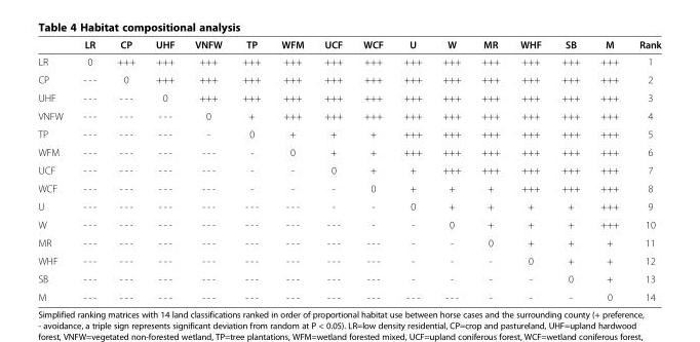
<table><thead><tr><td></td><td>LR</td><td>CP</td><td>UHF</td><td>VNFW</td><td>TP</td><td>WFM</td><td>UCF</td><td>WCF</td><td>U</td><td>W</td><td>MR</td><td>WHF</td><td>SB</td><td>M</td><td>Rank</td></tr></thead><tbody><tr><td>LR</td><td>0</td><td>+++</td><td>+++</td><td>+++</td><td>+++</td><td>+++</td><td>+++</td><td>+++</td><td>+++</td><td>+++</td><td>+++</td><td>+++</td><td>+++</td><td>+++</td><td>1</td></tr><tr><td>CP</td><td>- - -</td><td>0</td><td>+++</td><td>+++</td><td>+++</td><td>+++</td><td>+++</td><td>+++</td><td>+++</td><td>+++</td><td>+++</td><td>+++</td><td>+++</td><td>+++</td><td>2</td></tr><tr><td>UHF</td><td>- - -</td><td>- - -</td><td>0</td><td>+++</td><td>+++</td><td>+++</td><td>+++</td><td>+++</td><td>+++</td><td>+++</td><td>+++</td><td>+++</td><td>+++</td><td>+++</td><td>3</td></tr><tr><td>VNFW</td><td>- - -</td><td>- - -</td><td>- - -</td><td>0</td><td>+</td><td>+++</td><td>+++</td><td>+++</td><td>+++</td><td>+++</td><td>+++</td><td>+++</td><td>+++</td><td>+++</td><td>4</td></tr><tr><td>TP</td><td>- - -</td><td>- - -</td><td>- - -</td><td>-</td><td>0</td><td>+</td><td>+</td><td>+</td><td>+++</td><td>+++</td><td>+++</td><td>+++</td><td>+++</td><td>+++</td><td>5</td></tr><tr><td>WFM</td><td>- - -</td><td>- - -</td><td>- - -</td><td>- - -</td><td>-</td><td>0</td><td>+</td><td>+</td><td>+++</td><td>+++</td><td>+++</td><td>+++</td><td>+++</td><td>+++</td><td>6</td></tr><tr><td>UCF</td><td>- - -</td><td>- - -</td><td>- - -</td><td>- - -</td><td>-</td><td>-</td><td>0</td><td>+</td><td>+</td><td>+++</td><td>+++</td><td>+++</td><td>+++</td><td>+++</td><td>7</td></tr><tr><td>WCF</td><td>- - -</td><td>- - -</td><td>- - -</td><td>- - -</td><td>-</td><td>-</td><td>-</td><td>0</td><td>+</td><td>+</td><td>+</td><td>+++</td><td>+++</td><td>+++</td><td>8</td></tr><tr><td>U</td><td>- - -</td><td>- - -</td><td>- - -</td><td>- - -</td><td>- - -</td><td>- - -</td><td>-</td><td>-</td><td>0</td><td>+</td><td>+</td><td>+</td><td>+</td><td>+++</td><td>9</td></tr><tr><td>W</td><td>- - -</td><td>- - -</td><td>- - -</td><td>- - -</td><td>- - -</td><td>- - -</td><td>- - -</td><td>-</td><td>-</td><td>0</td><td>+</td><td>+</td><td>+</td><td>+++</td><td>10</td></tr><tr><td>MR</td><td>- - -</td><td>- - -</td><td>- - -</td><td>- - -</td><td>- - -</td><td>- - -</td><td>- - -</td><td>- - -</td><td>-</td><td>-</td><td>0</td><td>+</td><td>+</td><td>+</td><td>11</td></tr><tr><td>WHF</td><td>- - -</td><td>- - -</td><td>- - -</td><td>- - -</td><td>- - -</td><td>- - -</td><td>- - -</td><td>- - -</td><td>-</td><td>-</td><td>-</td><td>0</td><td>+</td><td>+</td><td>12</td></tr><tr><td>SB</td><td>- - -</td><td>- - -</td><td>- - -</td><td>- - -</td><td>- - -</td><td>- - -</td><td>- - -</td><td>- - -</td><td>-</td><td>-</td><td>-</td><td>-</td><td>0</td><td>+</td><td>13</td></tr><tr><td>M</td><td>- - -</td><td>- - -</td><td>- - -</td><td>- - -</td><td>- - -</td><td>- - -</td><td>- - -</td><td>- - -</td><td>- - -</td><td>- - -</td><td>-</td><td>-</td><td>-</td><td>0</td><td>14</td></tr></tbody></table>